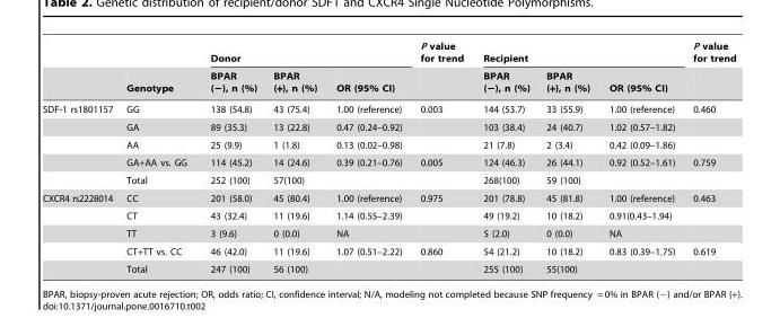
<table><thead><tr><td rowspan="2"></td><td rowspan="2">Genotype</td><td colspan="3">Donor</td><td rowspan="2">P value for trend</td><td colspan="3">Recipient</td><td rowspan="2">P value for trend</td></tr><tr><td>BPAR (−), n (%)</td><td>BPAR (+), n (%)</td><td>OR (95% CI)</td><td>BPAR (−), n (%)</td><td>BPAR (+), n (%)</td><td>OR (95% CI)</td></tr></thead><tbody><tr><td rowspan="5">SDF-1 rs1801157</td><td>GG</td><td>138 (54.8)</td><td>43 (75.4)</td><td>1.00 (reference)</td><td>0.003</td><td>144 (53.7)</td><td>33 (55.9)</td><td>1.00 (reference)</td><td>0.460</td></tr><tr><td>GA</td><td>89 (35.3)</td><td>13 (22.8)</td><td>0.47 (0.24–0.92)</td><td></td><td>103 (38.4)</td><td>24 (40.7)</td><td>1.02 (0.57–1.82)</td><td></td></tr><tr><td>AA</td><td>25 (9.9)</td><td>1 (1.8)</td><td>0.13 (0.02–0.98)</td><td></td><td>21 (7.8)</td><td>2 (3.4)</td><td>0.42 (0.09–1.86)</td><td></td></tr><tr><td>GA+AA vs. GG</td><td>114 (45.2)</td><td>14 (24.6)</td><td>0.39 (0.21–0.76)</td><td>0.005</td><td>124 (46.3)</td><td>26 (44.1)</td><td>0.92 (0.52–1.61)</td><td>0.759</td></tr><tr><td>Total</td><td>252 (100)</td><td>57(100)</td><td></td><td></td><td>268(100)</td><td>59 (100)</td><td></td><td></td></tr><tr><td rowspan="5">CXCR4 rs2228014</td><td>CC</td><td>201 (58.0)</td><td>45 (80.4)</td><td>1.00 (reference)</td><td>0.975</td><td>201 (78.8)</td><td>45 (81.8)</td><td>1.00 (reference)</td><td>0.463</td></tr><tr><td>CT</td><td>43 (32.4)</td><td>11 (19.6)</td><td>1.14 (0.55–2.39)</td><td></td><td>49 (19.2)</td><td>10 (18.2)</td><td>0.91(0.43–1.94)</td><td></td></tr><tr><td>TT</td><td>3 (9.6)</td><td>0 (0.0)</td><td>NA</td><td></td><td>5 (2.0)</td><td>0 (0.0)</td><td>NA</td><td></td></tr><tr><td>CT+TT vs. CC</td><td>46 (42.0)</td><td>11 (19.6)</td><td>1.07 (0.51–2.22)</td><td>0.860</td><td>54 (21.2)</td><td>10 (18.2)</td><td>0.83 (0.39–1.75)</td><td>0.619</td></tr><tr><td>Total</td><td>247 (100)</td><td>56 (100)</td><td></td><td></td><td>255 (100)</td><td>55(100)</td><td></td><td></td></tr></tbody></table>